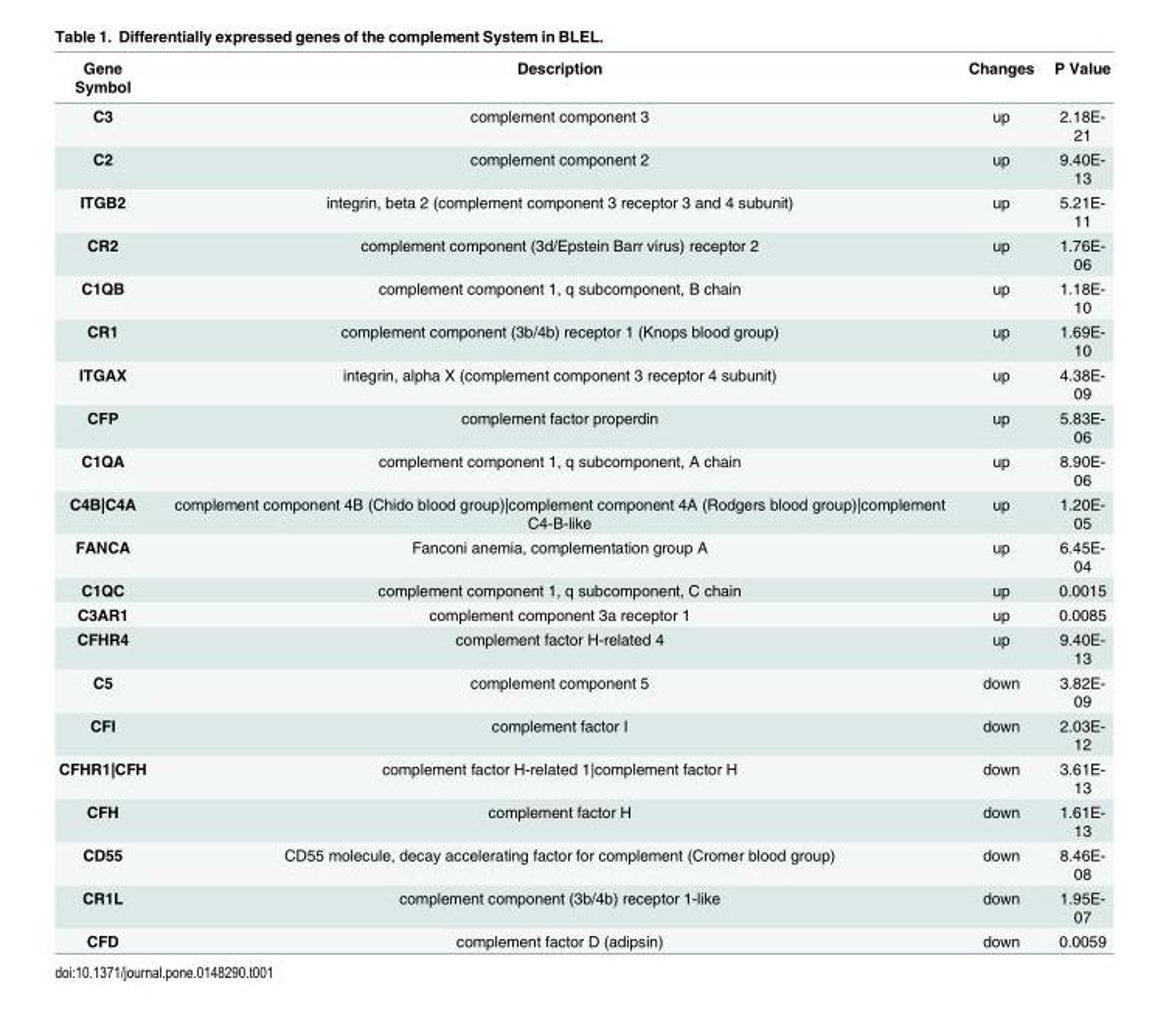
<table><thead><tr><td>Gene Symbol</td><td>Description</td><td>Changes</td><td>P Value</td></tr></thead><tbody><tr><td>C3</td><td>complement component 3</td><td>up</td><td>2.18E- 21</td></tr><tr><td>C2</td><td>complement component 2</td><td>up</td><td>9.40E- 13</td></tr><tr><td>ITGB2</td><td>integrin, beta 2 (complement component 3 receptor 3 and 4 subunit)</td><td>up</td><td>5.21E- 11</td></tr><tr><td>CR2</td><td>complement component (3d/Epstein Barr virus) receptor 2</td><td>up</td><td>1.76E- 06</td></tr><tr><td>C1QB</td><td>complement component 1, q subcomponent, B chain</td><td>up</td><td>1.18E- 10</td></tr><tr><td>CR1</td><td>complement component (3b/4b) receptor 1 (Knops blood group)</td><td>up</td><td>1.69E- 10</td></tr><tr><td>ITGAX</td><td>integrin, alpha X (complement component 3 receptor 4 subunit)</td><td>up</td><td>4.38E- 09</td></tr><tr><td>CFP</td><td>complement factor properdin</td><td>up</td><td>5.83E- 06</td></tr><tr><td>C1QA</td><td>complement component 1, q subcomponent, A chain</td><td>up</td><td>8.90E- 06</td></tr><tr><td>C4B|C4A</td><td>complement component 4B (Chido blood group)|complement component 4A (Rodgers blood group)|complement C4-B-like</td><td>up</td><td>1.20E- 05</td></tr><tr><td>FANCA</td><td>Fanconi anemia, complementation group A</td><td>up</td><td>6.45E- 04</td></tr><tr><td>C1QC</td><td>complement component 1, q subcomponent, C chain</td><td>up</td><td>0.0015</td></tr><tr><td>C3AR1</td><td>complement component 3a receptor 1</td><td>up</td><td>0.0085</td></tr><tr><td>CFHR4</td><td>complement factor H-related 4</td><td>up</td><td>9.40E- 13</td></tr><tr><td>C5</td><td>complement component 5</td><td>down</td><td>3.82E- 09</td></tr><tr><td>CFI</td><td>complement factor I</td><td>down</td><td>2.03E- 12</td></tr><tr><td>CFHR1|CFH</td><td>complement factor H-related 1|complement factor H</td><td>down</td><td>3.61E- 13</td></tr><tr><td>CFH</td><td>complement factor H</td><td>down</td><td>1.61E- 13</td></tr><tr><td>CD55</td><td>CD55 molecule, decay accelerating factor for complement (Cromer blood group)</td><td>down</td><td>8.46E- 08</td></tr><tr><td>CR1L</td><td>complement component (3b/4b) receptor 1-like</td><td>down</td><td>1.95E- 07</td></tr><tr><td>CFD</td><td>complement factor D (adipsin)</td><td>down</td><td>0.0059</td></tr></tbody></table>